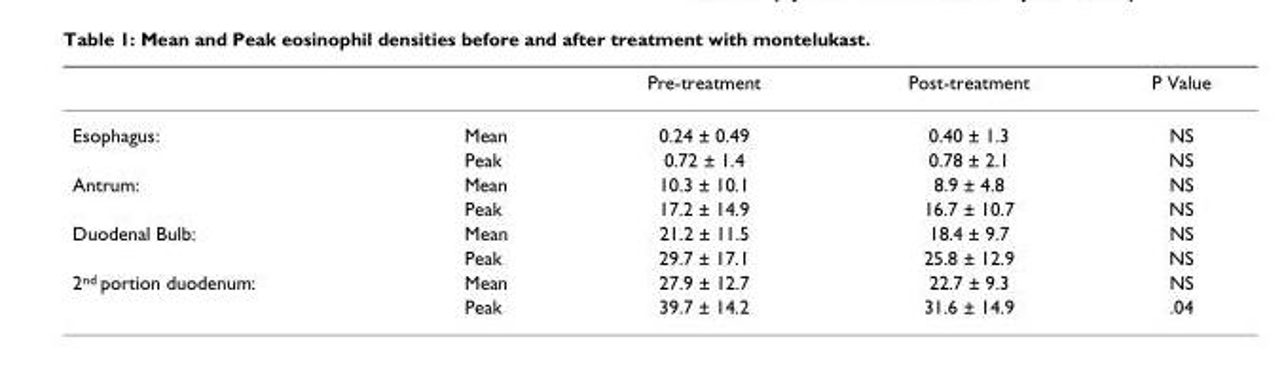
<table><thead><tr><td></td><td></td><td>Pre-treatment</td><td>Post-treatment</td><td>P Value</td></tr></thead><tbody><tr><td rowspan="2">Esophagus:</td><td>Mean</td><td>0.24 ± 0.49</td><td>0.40 ± 1.3</td><td>NS</td></tr><tr><td>Peak</td><td>0.72 ± 1.4</td><td>0.78 ± 2.1</td><td>NS</td></tr><tr><td rowspan="2">Antrum:</td><td>Mean</td><td>10.3 ± 10.1</td><td>8.9 ± 4.8</td><td>NS</td></tr><tr><td>Peak</td><td>17.2 ± 14.9</td><td>16.7 ± 10.7</td><td>NS</td></tr><tr><td rowspan="2">Duodenal Bulb:</td><td>Mean</td><td>21.2 ± 11.5</td><td>18.4 ± 9.7</td><td>NS</td></tr><tr><td>Peak</td><td>29.7 ± 17.1</td><td>25.8 ± 12.9</td><td>NS</td></tr><tr><td rowspan="2">2<sup>nd</sup> portion duodenum:</td><td>Mean</td><td>27.9 ± 12.7</td><td>22.7 ± 9.3</td><td>NS</td></tr><tr><td>Peak</td><td>39.7 ± 14.2</td><td>31.6 ± 14.9</td><td>.04</td></tr></tbody></table>